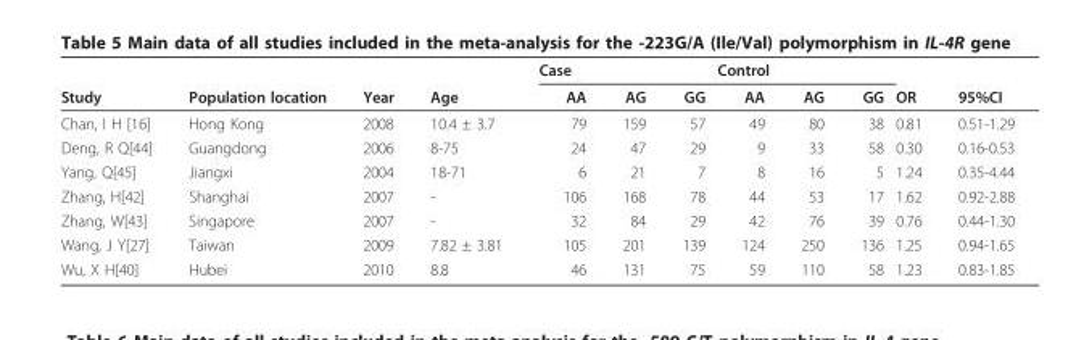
<table><thead><tr><td rowspan="2">Study</td><td rowspan="2">Population location</td><td rowspan="2">Year</td><td rowspan="2">Age</td><td colspan="3">Case</td><td colspan="3">Control</td><td rowspan="2">OR</td><td rowspan="2">95%CI</td></tr><tr><td>AA</td><td>AG</td><td>GG</td><td>AA</td><td>AG</td><td>GG</td></tr></thead><tbody><tr><td>Chan, I H [16]</td><td>Hong Kong</td><td>2008</td><td>10.4 ± 3.7</td><td>79</td><td>159</td><td>57</td><td>49</td><td>80</td><td>38</td><td>0.81</td><td>0.51-1.29</td></tr><tr><td>Deng, R Q[44]</td><td>Guangdong</td><td>2006</td><td>8-75</td><td>24</td><td>47</td><td>29</td><td>9</td><td>33</td><td>58</td><td>0.30</td><td>0.16-0.53</td></tr><tr><td>Yang, Q[45]</td><td>Jiangxi</td><td>2004</td><td>18-71</td><td>6</td><td>21</td><td>7</td><td>8</td><td>16</td><td>5</td><td>1.24</td><td>0.35-4.44</td></tr><tr><td>Zhang, H[42]</td><td>Shanghai</td><td>2007</td><td>-</td><td>106</td><td>168</td><td>78</td><td>44</td><td>53</td><td>17</td><td>1.62</td><td>0.92-2.88</td></tr><tr><td>Zhang, W[43]</td><td>Singapore</td><td>2007</td><td>-</td><td>32</td><td>84</td><td>29</td><td>42</td><td>76</td><td>39</td><td>0.76</td><td>0.44-1.30</td></tr><tr><td>Wang, J Y[27]</td><td>Taiwan</td><td>2009</td><td>7.82 ± 3.81</td><td>105</td><td>201</td><td>139</td><td>124</td><td>250</td><td>136</td><td>1.25</td><td>0.94-1.65</td></tr><tr><td>Wu, X H[40]</td><td>Hubei</td><td>2010</td><td>8.8</td><td>46</td><td>131</td><td>75</td><td>59</td><td>110</td><td>58</td><td>1.23</td><td>0.83-1.85</td></tr></tbody></table>